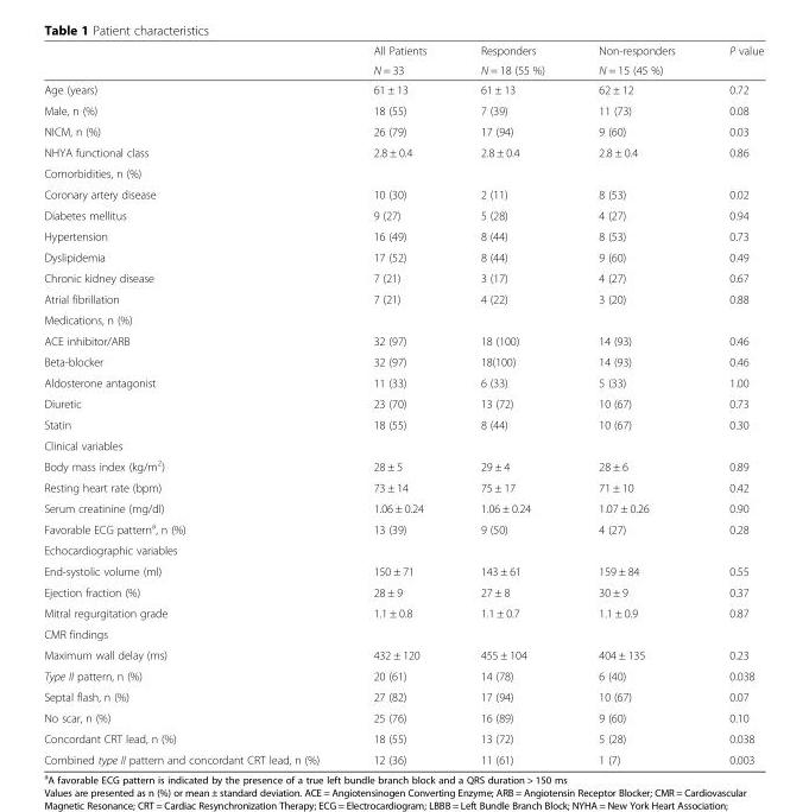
<table><thead><tr><td rowspan="2"></td><td rowspan="2">All Patients N = 33</td><td rowspan="2">Responders N = 18 (55 %)</td><td rowspan="2">Non-responders N = 15 (45 %)</td><td rowspan="2">P value</td></tr><tr></tr></thead><tbody><tr><td>Age (years)</td><td>61 ± 13</td><td>61 ± 13</td><td>62 ± 12</td><td>0.72</td></tr><tr><td>Male, n (%)</td><td>18 (55)</td><td>7 (39)</td><td>11 (73)</td><td>0.08</td></tr><tr><td>NICM, n (%)</td><td>26 (79)</td><td>17 (94)</td><td>9 (60)</td><td>0.03</td></tr><tr><td>NHYA functional class</td><td>2.8 ± 0.4</td><td>2.8 ± 0.4</td><td>2.8 ± 0.4</td><td>0.86</td></tr><tr><td colspan="5">Comorbidities, n (%)</td></tr><tr><td>Coronary artery disease</td><td>10 (30)</td><td>2 (11)</td><td>8 (53)</td><td>0.02</td></tr><tr><td>Diabetes mellitus</td><td>9 (27)</td><td>5 (28)</td><td>4 (27)</td><td>0.94</td></tr><tr><td>Hypertension</td><td>16 (49)</td><td>8 (44)</td><td>8 (53)</td><td>0.73</td></tr><tr><td>Dyslipidemia</td><td>17 (52)</td><td>8 (44)</td><td>9 (60)</td><td>0.49</td></tr><tr><td>Chronic kidney disease</td><td>7 (21)</td><td>3 (17)</td><td>4 (27)</td><td>0.67</td></tr><tr><td>Atrial fibrillation</td><td>7 (21)</td><td>4 (22)</td><td>3 (20)</td><td>0.88</td></tr><tr><td colspan="5">Medications, n (%)</td></tr><tr><td>ACE inhibitor/ARB</td><td>32 (97)</td><td>18 (100)</td><td>14 (93)</td><td>0.46</td></tr><tr><td>Beta-blocker</td><td>32 (97)</td><td>18(100)</td><td>14 (93)</td><td>0.46</td></tr><tr><td>Aldosterone antagonist</td><td>11 (33)</td><td>6 (33)</td><td>5 (33)</td><td>1.00</td></tr><tr><td>Diuretic</td><td>23 (70)</td><td>13 (72)</td><td>10 (67)</td><td>0.73</td></tr><tr><td>Statin</td><td>18 (55)</td><td>8 (44)</td><td>10 (67)</td><td>0.30</td></tr><tr><td colspan="5">Clinical variables</td></tr><tr><td>Body mass index (kg/m<sup>2</sup>)</td><td>28 ± 5</td><td>29 ± 4</td><td>28 ± 6</td><td>0.89</td></tr><tr><td>Resting heart rate (bpm)</td><td>73 ± 14</td><td>75 ± 17</td><td>71 ± 10</td><td>0.42</td></tr><tr><td>Serum creatinine (mg/dl)</td><td>1.06 ± 0.24</td><td>1.06 ± 0.24</td><td>1.07 ± 0.26</td><td>0.90</td></tr><tr><td>Favorable ECG pattern<sup>a</sup>, n (%)</td><td>13 (39)</td><td>9 (50)</td><td>4 (27)</td><td>0.28</td></tr><tr><td colspan="5">Echocardiographic variables</td></tr><tr><td>End-systolic volume (ml)</td><td>150 ± 71</td><td>143 ± 61</td><td>159 ± 84</td><td>0.55</td></tr><tr><td>Ejection fraction (%)</td><td>28 ± 9</td><td>27 ± 8</td><td>30 ± 9</td><td>0.37</td></tr><tr><td>Mitral regurgitation grade</td><td>1.1 ± 0.8</td><td>1.1 ± 0.7</td><td>1.1 ± 0.9</td><td>0.87</td></tr><tr><td colspan="5">CMR findings</td></tr><tr><td>Maximum wall delay (ms)</td><td>432 ± 120</td><td>455 ± 104</td><td>404 ± 135</td><td>0.23</td></tr><tr><td>Type II pattern, n (%)</td><td>20 (61)</td><td>14 (78)</td><td>6 (40)</td><td>0.038</td></tr><tr><td>Septal flash, n (%)</td><td>27 (82)</td><td>17 (94)</td><td>10 (67)</td><td>0.07</td></tr><tr><td>No scar, n (%)</td><td>25 (76)</td><td>16 (89)</td><td>9 (60)</td><td>0.10</td></tr><tr><td>Concordant CRT lead, n (%)</td><td>18 (55)</td><td>13 (72)</td><td>5 (28)</td><td>0.038</td></tr><tr><td>Combined type II pattern and concordant CRT lead, n (%)</td><td>12 (36)</td><td>11 (61)</td><td>1 (7)</td><td>0.003</td></tr></tbody></table>